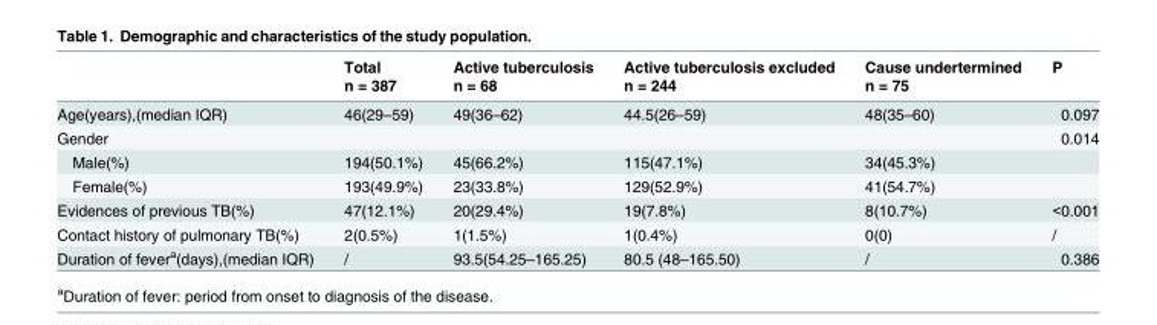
<table><thead><tr><td rowspan="2"></td><td rowspan="2">Total n = 387</td><td rowspan="2">Active tuberculosis n = 68</td><td rowspan="2">Active tuberculosis excluded n = 244</td><td rowspan="2">Cause undertermined n = 75</td><td rowspan="2">P</td></tr><tr></tr></thead><tbody><tr><td>Age(years),(median IQR)</td><td>46(29–59)</td><td>49(36–62)</td><td>44.5(26–59)</td><td>48(35–60)</td><td>0.097</td></tr><tr><td>Gender</td><td></td><td></td><td></td><td></td><td>0.014</td></tr><tr><td>Male(%)</td><td>194(50.1%)</td><td>45(66.2%)</td><td>115(47.1%)</td><td>34(45.3%)</td><td></td></tr><tr><td>Female(%)</td><td>193(49.9%)</td><td>23(33.8%)</td><td>129(52.9%)</td><td>41(54.7%)</td><td></td></tr><tr><td>Evidences of previous TB(%)</td><td>47(12.1%)</td><td>20(29.4%)</td><td>19(7.8%)</td><td>8(10.7%)</td><td>&lt;0.001</td></tr><tr><td>Contact history of pulmonary TB(%)</td><td>2(0.5%)</td><td>1(1.5%)</td><td>1(0.4%)</td><td>0(0)</td><td>/</td></tr><tr><td>Duration of fever<sup>a</sup>(days),(median IQR)</td><td>/</td><td>93.5(54.25–165.25)</td><td>80.5 (48–165.50)</td><td>/</td><td>0.386</td></tr></tbody></table>